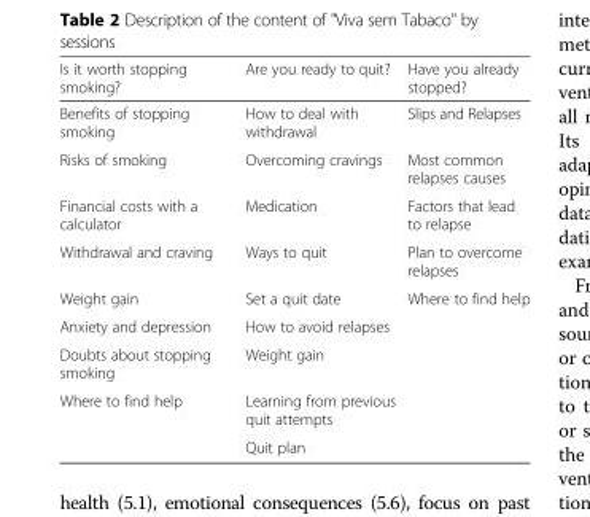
<table><thead><tr><td>Is it worth stopping smoking?</td><td>Are you ready to quit?</td><td>Have you already stopped?</td></tr></thead><tbody><tr><td>Benefits of stopping smoking</td><td>How to deal with withdrawal</td><td>Slips and Relapses</td></tr><tr><td>Risks of smoking</td><td>Overcoming cravings</td><td>Most common relapses causes</td></tr><tr><td>Financial costs with a calculator</td><td>Medication</td><td>Factors that lead to relapse</td></tr><tr><td>Withdrawal and craving</td><td>Ways to quit</td><td>Plan to overcome relapses</td></tr><tr><td>Weight gain</td><td>Set a quit date</td><td>Where to find help</td></tr><tr><td>Anxiety and depression</td><td>How to avoid relapses</td><td></td></tr><tr><td>Doubts about stopping smoking</td><td>Weight gain</td><td></td></tr><tr><td rowspan="2">Where to find help</td><td>Learning from previous quit attempts</td><td></td></tr><tr><td>Quit plan</td><td></td></tr></tbody></table>